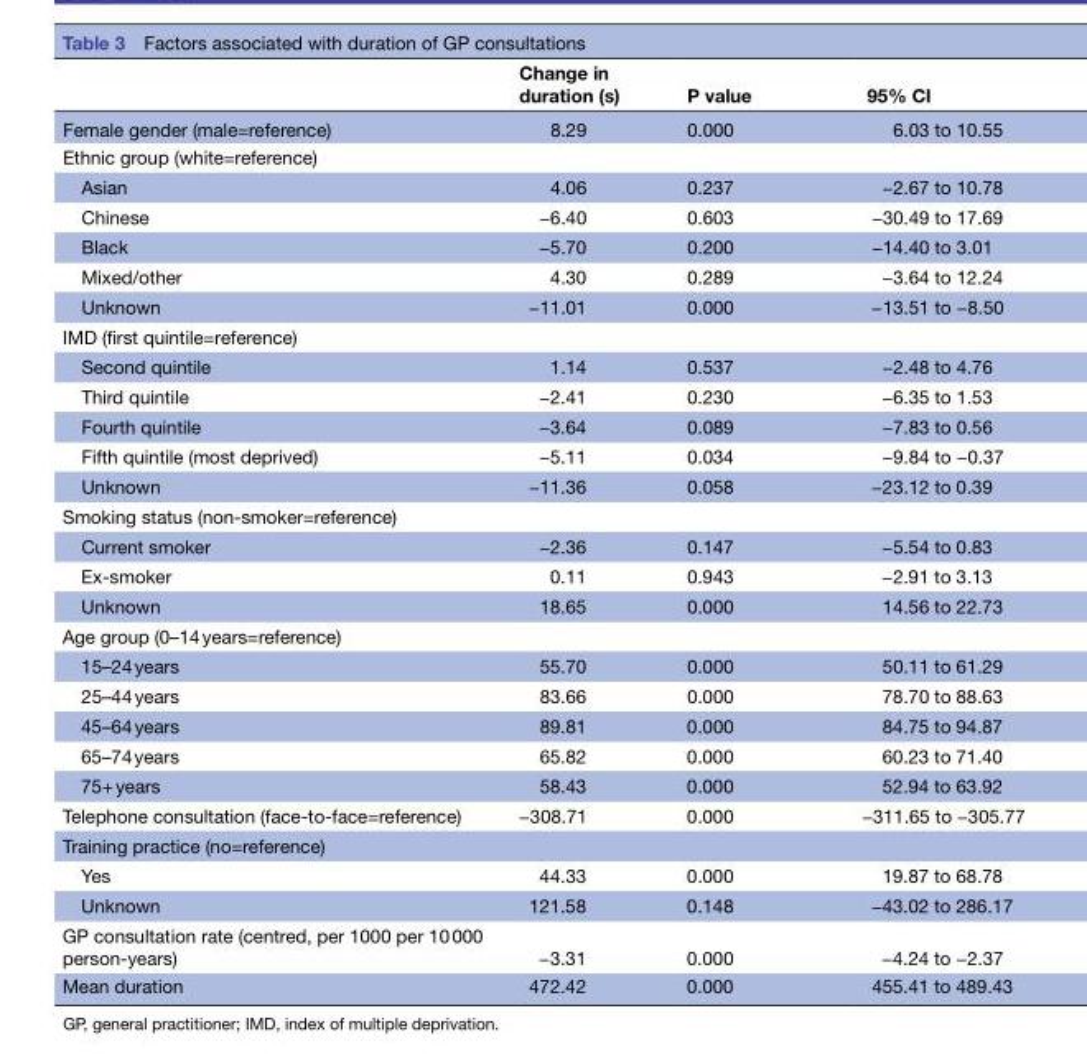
<table><thead><tr><td></td><td>Change in duration (s)</td><td>P value</td><td>95% CI</td></tr></thead><tbody><tr><td>Female gender (male=reference)</td><td>8.29</td><td>0.000</td><td>6.03 to 10.55</td></tr><tr><td colspan="4">Ethnic group (white=reference)</td></tr><tr><td>Asian</td><td>4.06</td><td>0.237</td><td>−2.67 to 10.78</td></tr><tr><td>Chinese</td><td>−6.40</td><td>0.603</td><td>−30.49 to 17.69</td></tr><tr><td>Black</td><td>−5.70</td><td>0.200</td><td>−14.40 to 3.01</td></tr><tr><td>Mixed/other</td><td>4.30</td><td>0.289</td><td>−3.64 to 12.24</td></tr><tr><td>Unknown</td><td>−11.01</td><td>0.000</td><td>−13.51 to −8.50</td></tr><tr><td colspan="4">IMD (first quintile=reference)</td></tr><tr><td>Second quintile</td><td>1.14</td><td>0.537</td><td>−2.48 to 4.76</td></tr><tr><td>Third quintile</td><td>−2.41</td><td>0.230</td><td>−6.35 to 1.53</td></tr><tr><td>Fourth quintile</td><td>−3.64</td><td>0.089</td><td>−7.83 to 0.56</td></tr><tr><td>Fifth quintile (most deprived)</td><td>−5.11</td><td>0.034</td><td>−9.84 to −0.37</td></tr><tr><td>Unknown</td><td>−11.36</td><td>0.058</td><td>−23.12 to 0.39</td></tr><tr><td colspan="4">Smoking status (non-smoker=reference)</td></tr><tr><td>Current smoker</td><td>−2.36</td><td>0.147</td><td>−5.54 to 0.83</td></tr><tr><td>Ex-smoker</td><td>0.11</td><td>0.943</td><td>−2.91 to 3.13</td></tr><tr><td>Unknown</td><td>18.65</td><td>0.000</td><td>14.56 to 22.73</td></tr><tr><td colspan="4">Age group (0–14 years=reference)</td></tr><tr><td>15–24 years</td><td>55.70</td><td>0.000</td><td>50.11 to 61.29</td></tr><tr><td>25–44 years</td><td>83.66</td><td>0.000</td><td>78.70 to 88.63</td></tr><tr><td>45–64 years</td><td>89.81</td><td>0.000</td><td>84.75 to 94.87</td></tr><tr><td>65–74 years</td><td>65.82</td><td>0.000</td><td>60.23 to 71.40</td></tr><tr><td>75+ years</td><td>58.43</td><td>0.000</td><td>52.94 to 63.92</td></tr><tr><td>Telephone consultation (face-to-face=reference)</td><td>−308.71</td><td>0.000</td><td>−311.65 to −305.77</td></tr><tr><td colspan="4">Training practice (no=reference)</td></tr><tr><td>Yes</td><td>44.33</td><td>0.000</td><td>19.87 to 68.78</td></tr><tr><td>Unknown</td><td>121.58</td><td>0.148</td><td>−43.02 to 286.17</td></tr><tr><td>GP consultation rate (centred, per 1000 per 10 000 person-years)</td><td>−3.31</td><td>0.000</td><td>−4.24 to −2.37</td></tr><tr><td>Mean duration</td><td>472.42</td><td>0.000</td><td>455.41 to 489.43</td></tr></tbody></table>